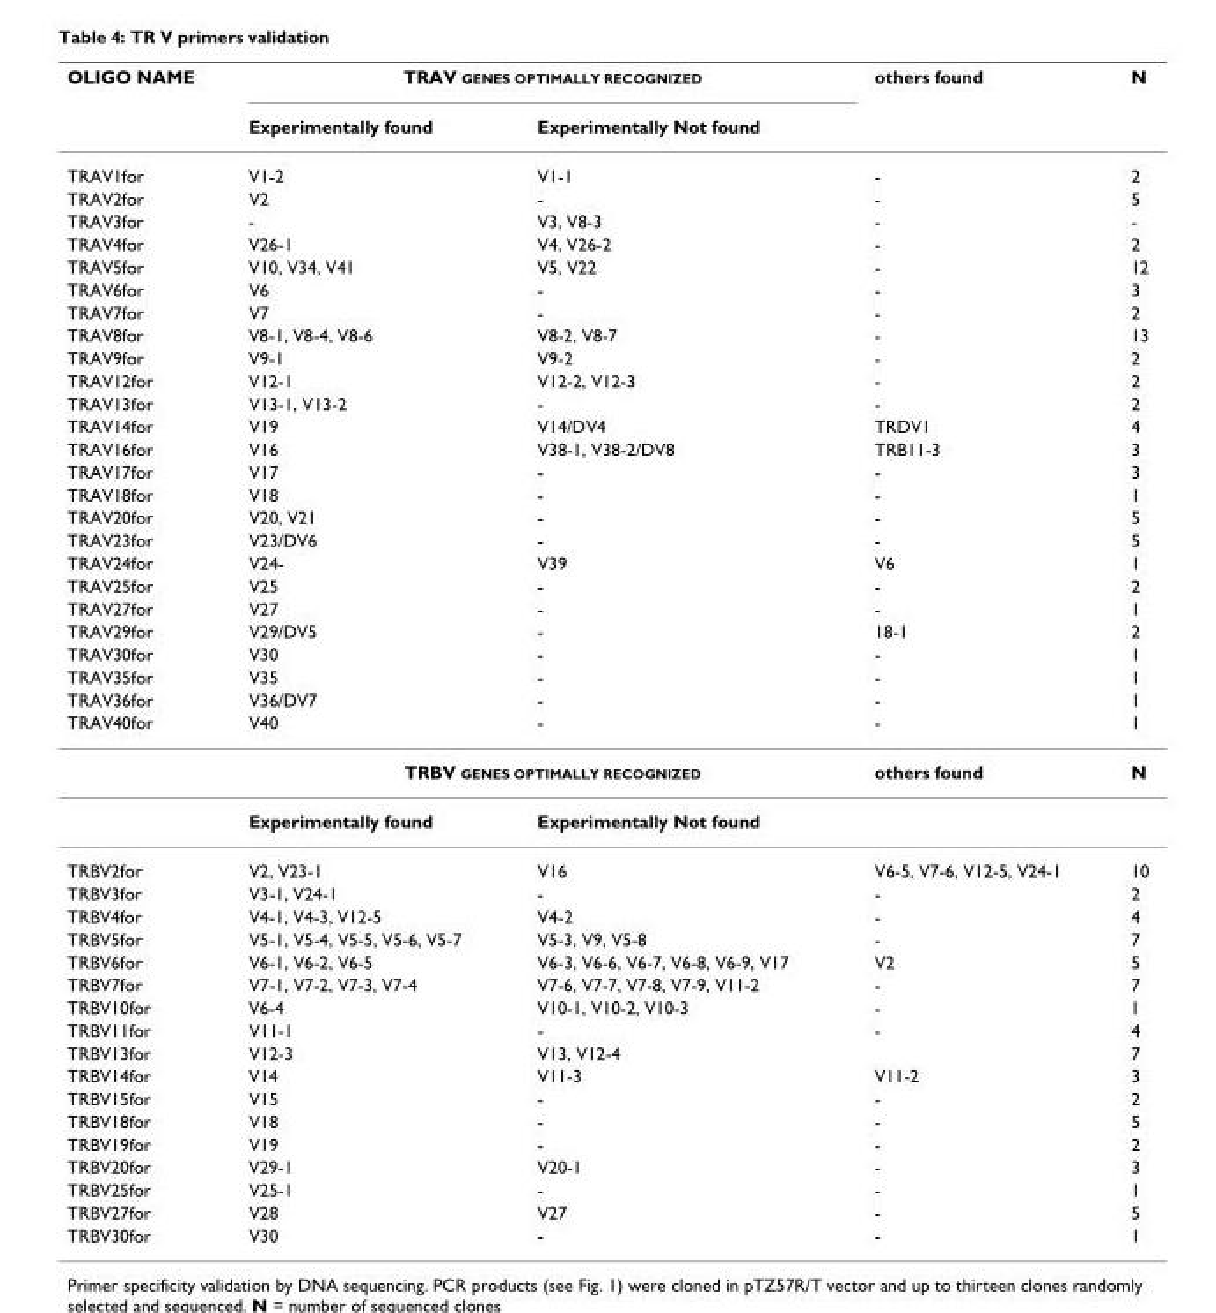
<table><thead><tr><td rowspan="2">OLIGO NAME</td><td colspan="2">TRAV GENES OPTIMALLY RECOGNIZED</td><td rowspan="2">others found</td><td rowspan="2">N</td></tr><tr><td>Experimentally found</td><td>Experimentally Not found</td></tr></thead><tbody><tr><td>TRAV1for</td><td>V1-2</td><td>V1-1</td><td>-</td><td>2</td></tr><tr><td>TRAV2for</td><td>V2</td><td>-</td><td>-</td><td>5</td></tr><tr><td>TRAV3for</td><td>-</td><td>V3, V8-3</td><td>-</td><td>-</td></tr><tr><td>TRAV4for</td><td>V26-1</td><td>V4, V26-2</td><td>-</td><td>2</td></tr><tr><td>TRAV5for</td><td>V10, V34, V41</td><td>V5, V22</td><td>-</td><td>12</td></tr><tr><td>TRAV6for</td><td>V6</td><td>-</td><td>-</td><td>3</td></tr><tr><td>TRAV7for</td><td>V7</td><td>-</td><td>-</td><td>2</td></tr><tr><td>TRAV8for</td><td>V8-1, V8-4, V8-6</td><td>V8-2, V8-7</td><td>-</td><td>13</td></tr><tr><td>TRAV9for</td><td>V9-1</td><td>V9-2</td><td>-</td><td>2</td></tr><tr><td>TRAV12for</td><td>V12-1</td><td>V12-2, V12-3</td><td>-</td><td>2</td></tr><tr><td>TRAV13for</td><td>V13-1, V13-2</td><td>-</td><td>-</td><td>2</td></tr><tr><td>TRAV14for</td><td>V19</td><td>V14/DV4</td><td>TRDV1</td><td>4</td></tr><tr><td>TRAV16for</td><td>V16</td><td>V38-1, V38-2/DV8</td><td>TRB11-3</td><td>3</td></tr><tr><td>TRAV17for</td><td>V17</td><td>-</td><td>-</td><td>3</td></tr><tr><td>TRAV18for</td><td>V18</td><td>-</td><td>-</td><td>1</td></tr><tr><td>TRAV20for</td><td>V20, V21</td><td>-</td><td>-</td><td>5</td></tr><tr><td>TRAV23for</td><td>V23/DV6</td><td>-</td><td>-</td><td>5</td></tr><tr><td>TRAV24for</td><td>V24-</td><td>V39</td><td>V6</td><td>1</td></tr><tr><td>TRAV25for</td><td>V25</td><td>-</td><td>-</td><td>2</td></tr><tr><td>TRAV27for</td><td>V27</td><td>-</td><td>-</td><td>1</td></tr><tr><td>TRAV29for</td><td>V29/DV5</td><td>-</td><td>18-1</td><td>2</td></tr><tr><td>TRAV30for</td><td>V30</td><td>-</td><td>-</td><td>1</td></tr><tr><td>TRAV35for</td><td>V35</td><td>-</td><td>-</td><td>1</td></tr><tr><td>TRAV36for</td><td>V36/DV7</td><td>-</td><td>-</td><td>1</td></tr><tr><td rowspan="3">TRAV40for</td><td>V40</td><td>-</td><td>-</td><td>1</td></tr><tr><td colspan="2">TRBV GENES OPTIMALLY RECOGNIZED</td><td>others found</td><td>N</td></tr><tr><td>Experimentally found</td><td>Experimentally Not found</td><td></td><td></td></tr><tr><td>TRBV2for</td><td>V2, V23-1</td><td>V16</td><td>V6-5, V7-6, V12-5, V24-1</td><td>10</td></tr><tr><td>TRBV3for</td><td>V3-1, V24-1</td><td>-</td><td>-</td><td>2</td></tr><tr><td>TRBV4for</td><td>V4-1, V4-3, V12-5</td><td>V4-2</td><td>-</td><td>4</td></tr><tr><td>TRBV5for</td><td>V5-1, V5-4, V5-5, V5-6, V5-7</td><td>V5-3, V9, V5-8</td><td>-</td><td>7</td></tr><tr><td>TRBV6for</td><td>V6-1, V6-2, V6-5</td><td>V6-3, V6-6, V6-7, V6-8, V6-9, V17</td><td>V2</td><td>5</td></tr><tr><td>TRBV7for</td><td>V7-1, V7-2, V7-3, V7-4</td><td>V7-6, V7-7, V7-8, V7-9, V11-2</td><td>-</td><td>7</td></tr><tr><td>TRBV10for</td><td>V6-4</td><td>V10-1, V10-2, V10-3</td><td>-</td><td>1</td></tr><tr><td>TRBV11for</td><td>V11-1</td><td>-</td><td>-</td><td>4</td></tr><tr><td>TRBV13for</td><td>V12-3</td><td>V13, V12-4</td><td></td><td>7</td></tr><tr><td>TRBV14for</td><td>V14</td><td>V11-3</td><td>V11-2</td><td>3</td></tr><tr><td>TRBV15for</td><td>V15</td><td>-</td><td>-</td><td>2</td></tr><tr><td>TRBV18for</td><td>V18</td><td>-</td><td>-</td><td>5</td></tr><tr><td>TRBV19for</td><td>V19</td><td>-</td><td>-</td><td>2</td></tr><tr><td>TRBV20for</td><td>V29-1</td><td>V20-1</td><td>-</td><td>3</td></tr><tr><td>TRBV25for</td><td>V25-1</td><td>-</td><td>-</td><td>1</td></tr><tr><td>TRBV27for</td><td>V28</td><td>V27</td><td>-</td><td>5</td></tr><tr><td>TRBV30for</td><td>V30</td><td>-</td><td>-</td><td>1</td></tr></tbody></table>